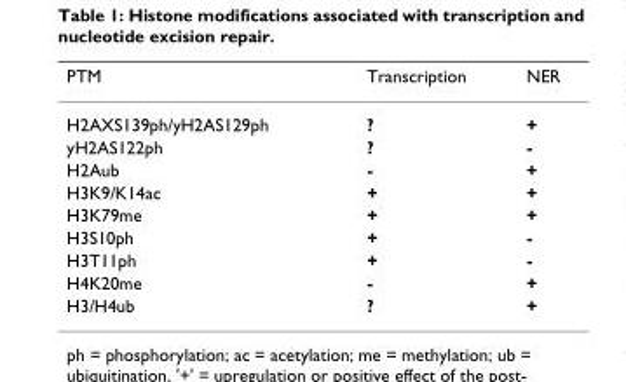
<table><thead><tr><td>PTM</td><td>Transcription</td><td>NER</td></tr></thead><tbody><tr><td>H2AXS139ph/yH2AS129ph</td><td>?</td><td>+</td></tr><tr><td>yH2AS122ph</td><td>?</td><td>-</td></tr><tr><td>H2Aub</td><td>-</td><td>+</td></tr><tr><td>H3K9/K14ac</td><td>+</td><td>+</td></tr><tr><td>H3K79me</td><td>+</td><td>+</td></tr><tr><td>H3S10ph</td><td>+</td><td>-</td></tr><tr><td>H3T11ph</td><td>+</td><td>-</td></tr><tr><td>H4K20me</td><td>-</td><td>+</td></tr><tr><td>H3/H4ub</td><td>?</td><td>+</td></tr></tbody></table>